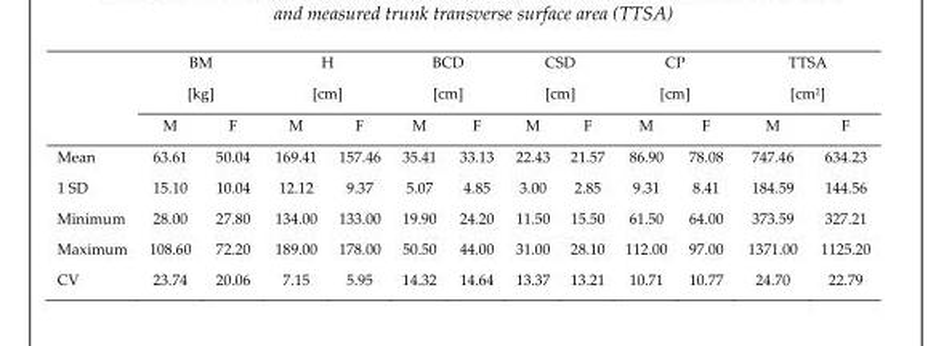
<table><thead><tr><td rowspan="2"></td><td colspan="2">BM [kg]</td><td colspan="2">H [cm]</td><td colspan="2">BCD [cm]</td><td colspan="2">CSD [cm]</td><td colspan="2">CP [cm]</td><td colspan="2">TTSA [cm<sup>2</sup>]</td></tr><tr><td>M</td><td>F</td><td>M</td><td>F</td><td>M</td><td>F</td><td>M</td><td>F</td><td>M</td><td>F</td><td>M</td><td>F</td></tr></thead><tbody><tr><td>Mean</td><td>63.61</td><td>50.04</td><td>169.41</td><td>157.46</td><td>35.41</td><td>33.13</td><td>22.43</td><td>21.57</td><td>86.90</td><td>78.08</td><td>747.46</td><td>634.23</td></tr><tr><td>1 SD</td><td>15.10</td><td>10.04</td><td>12.12</td><td>9.37</td><td>5.07</td><td>4.85</td><td>3.00</td><td>2.85</td><td>9.31</td><td>8.41</td><td>184.59</td><td>144.56</td></tr><tr><td>Minimum</td><td>28.00</td><td>27.80</td><td>134.00</td><td>133.00</td><td>19.90</td><td>24.20</td><td>11.50</td><td>15.50</td><td>61.50</td><td>64.00</td><td>373.59</td><td>327.21</td></tr><tr><td>Maximum</td><td>108.60</td><td>72.20</td><td>189.00</td><td>178.00</td><td>50.50</td><td>44.00</td><td>31.00</td><td>28.10</td><td>112.00</td><td>97.00</td><td>1371.00</td><td>1125.20</td></tr><tr><td>CV</td><td>23.74</td><td>20.06</td><td>7.15</td><td>5.95</td><td>14.32</td><td>14.64</td><td>13.37</td><td>13.21</td><td>10.71</td><td>10.77</td><td>24.70</td><td>22.79</td></tr></tbody></table>